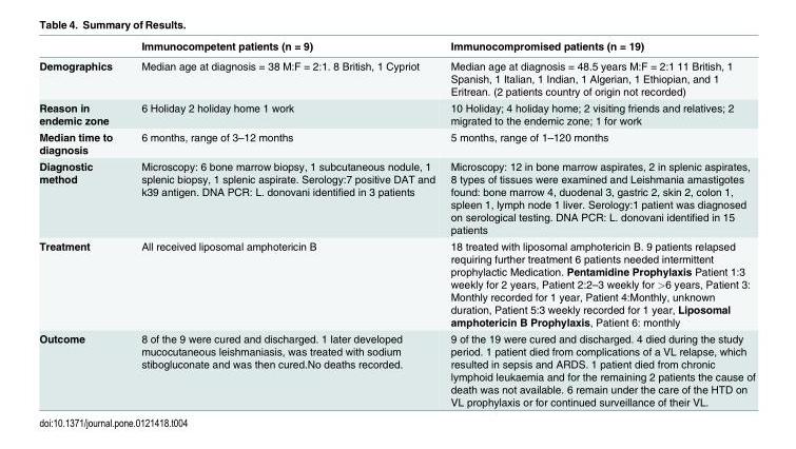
<table><thead><tr><td></td><td>Immunocompetent patients (n = 9)</td><td>Immunocompromised patients (n = 19)</td></tr></thead><tbody><tr><td>Demographics</td><td>Median age at diagnosis = 38 M:F = 2:1. 8 British, 1 Cypriot</td><td>Median age at diagnosis = 48.5 years M:F = 2:1 11 British, 1 Spanish, 1 Italian, 1 Indian, 1 Algerian, 1 Ethiopian, and 1 Eritrean. (2 patients country of origin not recorded)</td></tr><tr><td>Reason in endemic zone</td><td>6 Holiday 2 holiday home 1 work</td><td>10 Holiday; 4 holiday home; 2 visiting friends and relatives; 2 migrated to the endemic zone; 1 for work</td></tr><tr><td>Median time to diagnosis</td><td>6 months, range of 3–12 months</td><td>5 months, range of 1–120 months</td></tr><tr><td>Diagnostic method</td><td>Microscopy: 6 bone marrow biopsy, 1 subcutaneous nodule, 1 splenic biopsy, 1 splenic aspirate. Serology:7 positive DAT and k39 antigen. DNA PCR: L. donovani identified in 3 patients</td><td>Microscopy: 12 in bone marrow aspirates, 2 in splenic aspirates, 8 types of tissues were examined and Leishmania amastigotes found: bone marrow 4, duodenal 3, gastric 2, skin 2, colon 1, spleen 1, lymph node 1 liver. Serology:1 patient was diagnosed on serological testing. DNA PCR: L. donovani identified in 15 patients</td></tr><tr><td>Treatment</td><td>All received liposomal amphotericin B</td><td>18 treated with liposomal amphotericin B. 9 patients relapsed requiring further treatment 6 patients needed intermittent prophylactic Medication. Pentamidine Prophylaxis Patient 1:3 weekly for 2 years, Patient 2:2–3 weekly for &gt;6 years, Patient 3: Monthly recorded for 1 year, Patient 4:Monthly, unknown duration, Patient 5:3 weekly recorded for 1 year, Liposomal amphotericin B Prophylaxis, Patient 6: monthly</td></tr><tr><td>Outcome</td><td>8 of the 9 were cured and discharged. 1 later developed mucocutaneous leishmaniasis, was treated with sodium stibogluconate and was then cured.No deaths recorded.</td><td>9 of the 19 were cured and discharged. 4 died during the study period. 1 patient died from complications of a VL relapse, which resulted in sepsis and ARDS. 1 patient died from chronic lymphoid leukaemia and for the remaining 2 patients the cause of death was not available. 6 remain under the care of the HTD on VL prophylaxis or for continued surveillance of their VL.</td></tr></tbody></table>